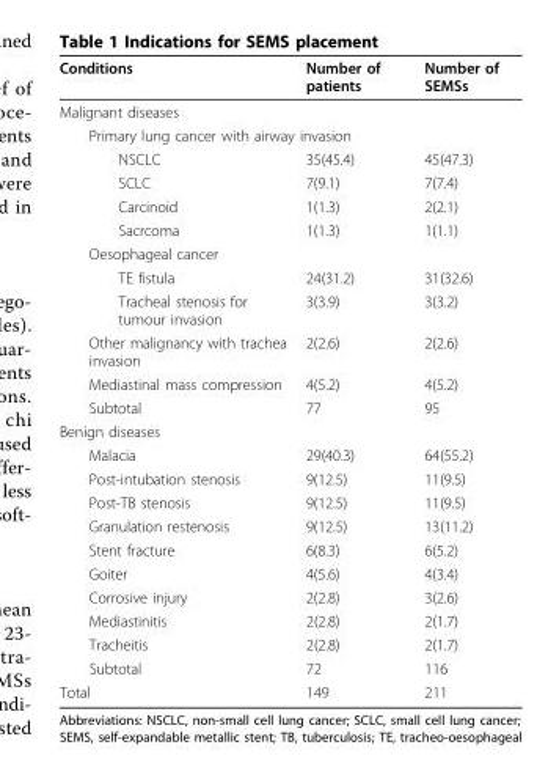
<table><thead><tr><td>Conditions</td><td>Number of patients</td><td>Number of SEMSs</td></tr></thead><tbody><tr><td colspan="3">Malignant diseases</td></tr><tr><td colspan="3">Primary lung cancer with airway invasion</td></tr><tr><td>NSCLC</td><td>35(45.4)</td><td>45(47.3)</td></tr><tr><td>SCLC</td><td>7(9.1)</td><td>7(7.4)</td></tr><tr><td>Carcinoid</td><td>1(1.3)</td><td>2(2.1)</td></tr><tr><td>Sacrcoma</td><td>1(1.3)</td><td>1(1.1)</td></tr><tr><td colspan="3">Oesophageal cancer</td></tr><tr><td>TE fistula</td><td>24(31.2)</td><td>31(32.6)</td></tr><tr><td>Tracheal stenosis for tumour invasion</td><td>3(3.9)</td><td>3(3.2)</td></tr><tr><td>Other malignancy with trachea invasion</td><td>2(2.6)</td><td>2(2.6)</td></tr><tr><td>Mediastinal mass compression</td><td>4(5.2)</td><td>4(5.2)</td></tr><tr><td>Subtotal</td><td>77</td><td>95</td></tr><tr><td colspan="3">Benign diseases</td></tr><tr><td>Malacia</td><td>29(40.3)</td><td>64(55.2)</td></tr><tr><td>Post-intubation stenosis</td><td>9(12.5)</td><td>11(9.5)</td></tr><tr><td>Post-TB stenosis</td><td>9(12.5)</td><td>11(9.5)</td></tr><tr><td>Granulation restenosis</td><td>9(12.5)</td><td>13(11.2)</td></tr><tr><td>Stent fracture</td><td>6(8.3)</td><td>6(5.2)</td></tr><tr><td>Goiter</td><td>4(5.6)</td><td>4(3.4)</td></tr><tr><td>Corrosive injury</td><td>2(2.8)</td><td>3(2.6)</td></tr><tr><td>Mediastinitis</td><td>2(2.8)</td><td>2(1.7)</td></tr><tr><td>Tracheitis</td><td>2(2.8)</td><td>2(1.7)</td></tr><tr><td>Subtotal</td><td>72</td><td>116</td></tr><tr><td>Total</td><td>149</td><td>211</td></tr></tbody></table>